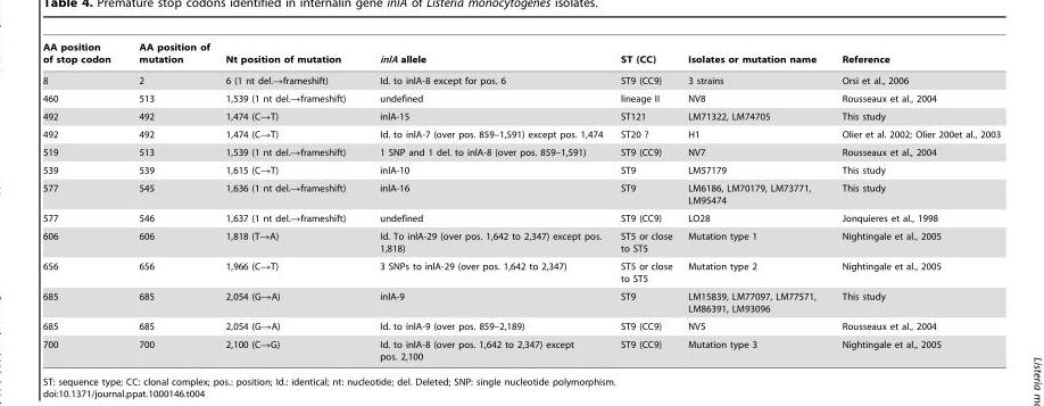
<table><thead><tr><td>AA position of stop codon</td><td>AA position of mutation</td><td>Nt position of mutation</td><td>inlA allele</td><td>ST (CC)</td><td>Isolates or mutation name</td><td>Reference</td></tr></thead><tbody><tr><td>8</td><td>2</td><td>6 (1 nt del.→frameshift)</td><td>Id. to inlA-8 except for pos. 6</td><td>ST9 (CC9)</td><td>3 strains</td><td>Orsi et al., 2006</td></tr><tr><td>460</td><td>513</td><td>1,539 (1 nt del.→frameshift)</td><td>undefined</td><td>lineage II</td><td>NV8</td><td>Rousseaux et al., 2004</td></tr><tr><td>492</td><td>492</td><td>1,474 (C→T)</td><td>inlA-15</td><td>ST121</td><td>LM71322, LM74705</td><td>This study</td></tr><tr><td>492</td><td>492</td><td>1,474 (C→T)</td><td>Id. to inlA-7 (over pos. 859–1,591) except pos. 1,474</td><td>ST20 ?</td><td>H1</td><td>Olier et al. 2002; Olier 200et al., 2003</td></tr><tr><td>519</td><td>513</td><td>1,539 (1 nt del.→frameshift)</td><td>1 SNP and 1 del. to inlA-8 (over pos. 859–1,591)</td><td>ST9 (CC9)</td><td>NV7</td><td>Rousseaux et al., 2004</td></tr><tr><td>539</td><td>539</td><td>1,615 (C→T)</td><td>inlA-10</td><td>ST9</td><td>LM57179</td><td>This study</td></tr><tr><td>577</td><td>545</td><td>1,636 (1 nt del.→frameshift)</td><td>inlA-16</td><td>ST9</td><td>LM6186, LM70179, LM73771, LM95474</td><td>This study</td></tr><tr><td>577</td><td>546</td><td>1,637 (1 nt del.→frameshift)</td><td>undefined</td><td>ST9 (CC9)</td><td>LO28</td><td>Jonquieres et al., 1998</td></tr><tr><td>606</td><td>606</td><td>1,818 (T→A)</td><td>Id. To inlA-29 (over pos. 1,642 to 2,347) except pos. 1,818)</td><td>ST5 or close to ST5</td><td>Mutation type 1</td><td>Nightingale et al., 2005</td></tr><tr><td>656</td><td>656</td><td>1,966 (C→T)</td><td>3 SNPs to inlA-29 (over pos. 1,642 to 2,347)</td><td>ST5 or close to ST5</td><td>Mutation type 2</td><td>Nightingale et al., 2005</td></tr><tr><td>685</td><td>685</td><td>2,054 (G→A)</td><td>inlA-9</td><td>ST9</td><td>LM15839, LM77097, LM77571, LM86391, LM93096</td><td>This study</td></tr><tr><td>685</td><td>685</td><td>2,054 (G→A)</td><td>Id. to inlA-9 (over pos. 859–2,189)</td><td>ST9 (CC9)</td><td>NV5</td><td>Rousseaux et al., 2004</td></tr><tr><td>700</td><td>700</td><td>2,100 (C→G)</td><td>Id. to inlA-8 (over pos. 1,642 to 2,347) except pos. 2,100</td><td>ST9 (CC9)</td><td>Mutation type 3</td><td>Nightingale et al., 2005</td></tr></tbody></table>